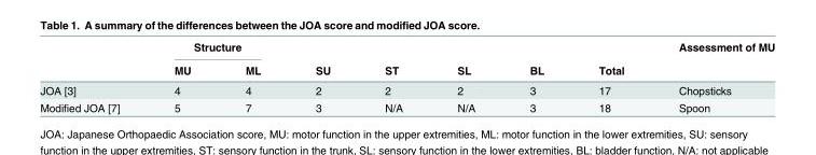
<table><thead><tr><td rowspan="2"></td><td colspan="2">Structure</td><td rowspan="2">SU</td><td rowspan="2">ST</td><td rowspan="2">SL</td><td rowspan="2">BL</td><td rowspan="2">Total</td><td rowspan="2">Assessment of MU</td></tr><tr><td>MU</td><td>ML</td></tr></thead><tbody><tr><td>JOA [3]</td><td>4</td><td>4</td><td>2</td><td>2</td><td>2</td><td>3</td><td>17</td><td>Chopsticks</td></tr><tr><td>Modified JOA [7]</td><td>5</td><td>7</td><td>3</td><td>N/A</td><td>N/A</td><td>3</td><td>18</td><td>Spoon</td></tr></tbody></table>